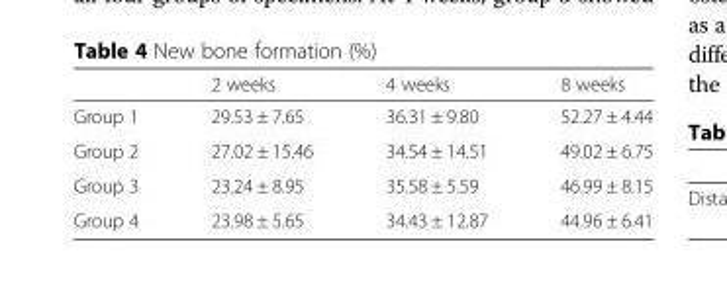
<table><thead><tr><td></td><td>2 weeks</td><td>4 weeks</td><td>8 weeks</td></tr></thead><tbody><tr><td>Group 1</td><td>29.53 ± 7.65</td><td>36.31 ± 9.80</td><td>52.27 ± 4.44</td></tr><tr><td>Group 2</td><td>27.02 ± 15.46</td><td>34.54 ± 14.51</td><td>49.02 ± 6.75</td></tr><tr><td>Group 3</td><td>23.24 ± 8.95</td><td>35.58 ± 5.59</td><td>46.99 ± 8.15</td></tr><tr><td>Group 4</td><td>23.98 ± 5.65</td><td>34.43 ± 12.87</td><td>44.96 ± 6.41</td></tr></tbody></table>